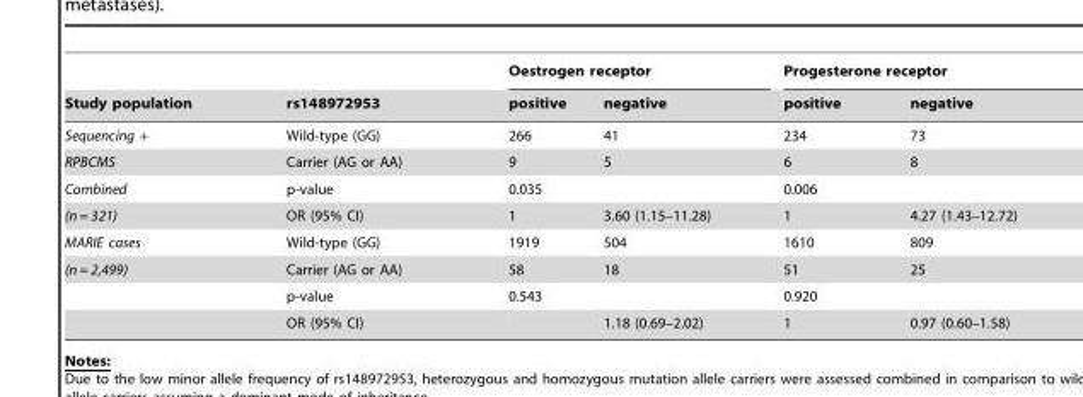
<table><thead><tr><td rowspan="2">Study population</td><td rowspan="2">rs148972953</td><td colspan="2">Oestrogen receptor</td><td colspan="2">Progesterone receptor</td></tr><tr><td>positive</td><td>negative</td><td>positive</td><td>negative</td></tr></thead><tbody><tr><td>Sequencing +</td><td>Wild-type (GG)</td><td>266</td><td>41</td><td>234</td><td>73</td></tr><tr><td>RPBCMS</td><td>Carrier (AG or AA)</td><td>9</td><td>5</td><td>6</td><td>8</td></tr><tr><td>Combined</td><td>p-value</td><td>0.035</td><td></td><td>0.006</td><td></td></tr><tr><td>(n = 321)</td><td>OR (95% CI)</td><td>1</td><td>3.60 (1.15–11.28)</td><td>1</td><td>4.27 (1.43–12.72)</td></tr><tr><td>MARIE cases</td><td>Wild-type (GG)</td><td>1919</td><td>504</td><td>1610</td><td>809</td></tr><tr><td rowspan="3">(n = 2,499)</td><td>Carrier (AG or AA)</td><td>58</td><td>18</td><td>51</td><td>25</td></tr><tr><td>p-value</td><td>0.543</td><td></td><td>0.920</td><td></td></tr><tr><td>OR (95% CI)</td><td></td><td>1.18 (0.69–2.02)</td><td>1</td><td>0.97 (0.60–1.58)</td></tr></tbody></table>